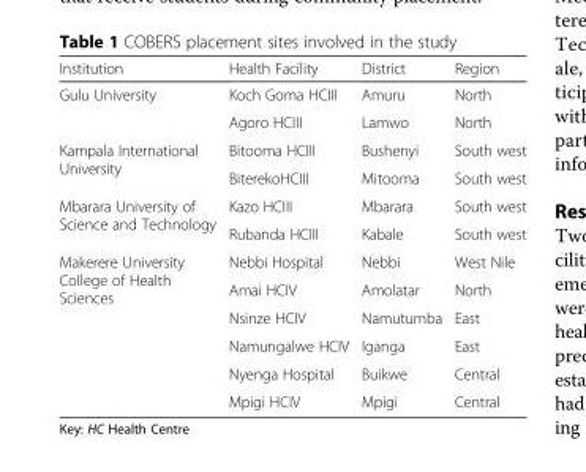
<table><thead><tr><td>Institution</td><td>Health Facility</td><td>District</td><td>Region</td></tr></thead><tbody><tr><td rowspan="2">Gulu University</td><td>Koch Goma HCIII</td><td>Amuru</td><td>North</td></tr><tr><td>Agoro HCIII</td><td>Lamwo</td><td>North</td></tr><tr><td rowspan="2">Kampala International University</td><td>Bitooma HCIII</td><td>Bushenyi</td><td>South west</td></tr><tr><td>BiterekoHCIII</td><td>Mitooma</td><td>South west</td></tr><tr><td rowspan="2">Mbarara University of Science and Technology</td><td>Kazo HCIII</td><td>Mbarara</td><td>South west</td></tr><tr><td>Rubanda HCIII</td><td>Kabale</td><td>South west</td></tr><tr><td rowspan="6">Makerere University College of Health Sciences</td><td>Nebbi Hospital</td><td>Nebbi</td><td>West Nile</td></tr><tr><td>Amai HCIV</td><td>Amolatar</td><td>North</td></tr><tr><td>Nsinze HCIV</td><td>Namutumba</td><td>East</td></tr><tr><td>Namungalwe HCIV</td><td>Iganga</td><td>East</td></tr><tr><td>Nyenga Hospital</td><td>Buikwe</td><td>Central</td></tr><tr><td>Mpigi HCIV</td><td>Mpigi</td><td>Central</td></tr></tbody></table>